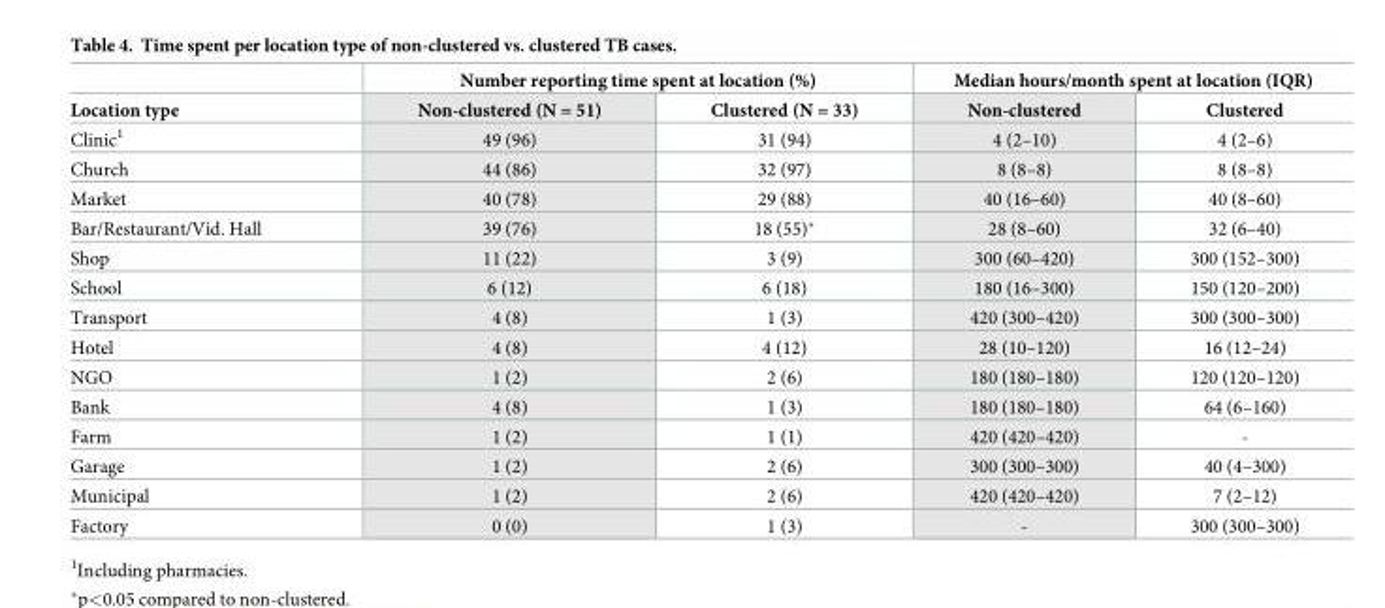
<table><thead><tr><td rowspan="2">Location type</td><td colspan="2">Number reporting time spent at location (%)</td><td colspan="2">Median hours/month spent at location (IQR)</td></tr><tr><td>Non-clustered (N = 51)</td><td>Clustered (N = 33)</td><td>Non-clustered</td><td>Clustered</td></tr></thead><tbody><tr><td>Clinic<sup>1</sup></td><td>49 (96)</td><td>31 (94)</td><td>4 (2–10)</td><td>4 (2–6)</td></tr><tr><td>Church</td><td>44 (86)</td><td>32 (97)</td><td>8 (8–8)</td><td>8 (8–8)</td></tr><tr><td>Market</td><td>40 (78)</td><td>29 (88)</td><td>40 (16–60)</td><td>40 (8–60)</td></tr><tr><td>Bar/Restaurant/Vid. Hall</td><td>39 (76)</td><td>18 (55)*</td><td>28 (8–60)</td><td>32 (6–40)</td></tr><tr><td>Shop</td><td>11 (22)</td><td>3 (9)</td><td>300 (60–420)</td><td>300 (152–300)</td></tr><tr><td>School</td><td>6 (12)</td><td>6 (18)</td><td>180 (16–300)</td><td>150 (120–200)</td></tr><tr><td>Transport</td><td>4 (8)</td><td>1 (3)</td><td>420 (300–420)</td><td>300 (300–300)</td></tr><tr><td>Hotel</td><td>4 (8)</td><td>4 (12)</td><td>28 (10–120)</td><td>16 (12–24)</td></tr><tr><td>NGO</td><td>1 (2)</td><td>2 (6)</td><td>180 (180–180)</td><td>120 (120–120)</td></tr><tr><td>Bank</td><td>4 (8)</td><td>1 (3)</td><td>180 (180–180)</td><td>64 (6–160)</td></tr><tr><td>Farm</td><td>1 (2)</td><td>1 (1)</td><td>420 (420–420)</td><td>-</td></tr><tr><td>Garage</td><td>1 (2)</td><td>2 (6)</td><td>300 (300–300)</td><td>40 (4–300)</td></tr><tr><td>Municipal</td><td>1 (2)</td><td>2 (6)</td><td>420 (420–420)</td><td>7 (2–12)</td></tr><tr><td>Factory</td><td>0 (0)</td><td>1 (3)</td><td>-</td><td>300 (300–300)</td></tr></tbody></table>